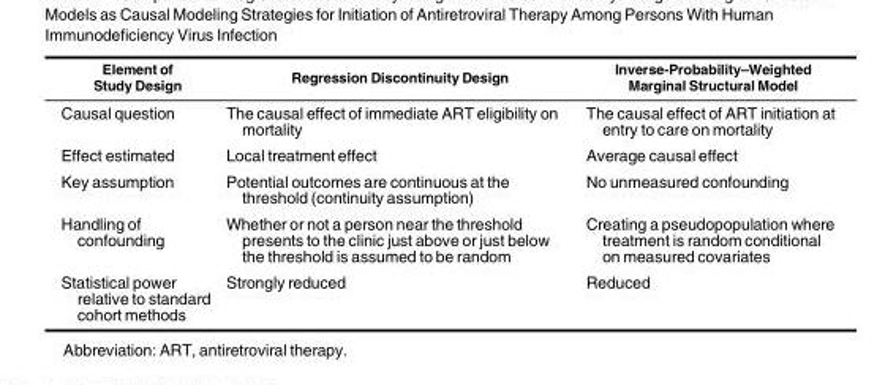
<table><thead><tr><td>Element of Study Design</td><td>Regression Discontinuity Design</td><td>Inverse-Probability–Weighted Marginal Structural Model</td></tr></thead><tbody><tr><td>Causal question</td><td>The causal effect of immediate ART eligibility on mortality</td><td>The causal effect of ART initiation at entry to care on mortality</td></tr><tr><td>Effect estimated</td><td>Local treatment effect</td><td>Average causal effect</td></tr><tr><td>Key assumption</td><td>Potential outcomes are continuous at the threshold (continuity assumption)</td><td>No unmeasured confounding</td></tr><tr><td>Handling of confounding</td><td>Whether or not a person near the threshold presents to the clinic just above or just below the threshold is assumed to be random</td><td>Creating a pseudopopulation where treatment is random conditional on measured covariates</td></tr><tr><td>Statistical power relative to standard cohort methods</td><td>Strongly reduced</td><td>Reduced</td></tr></tbody></table>